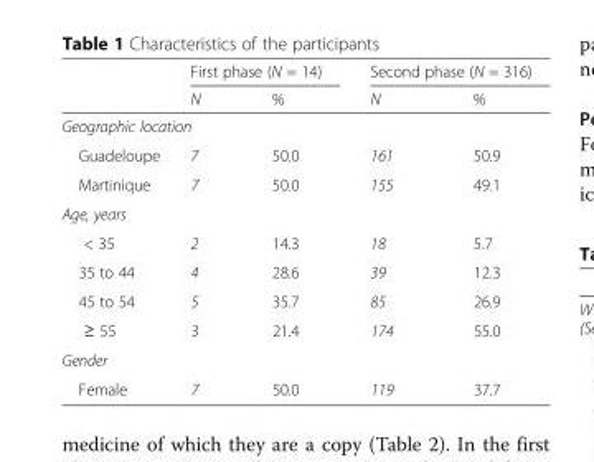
<table><thead><tr><td rowspan="2"></td><td colspan="2">First phase (N = 14)</td><td colspan="2">Second phase (N = 316)</td></tr><tr><td>N</td><td>%</td><td>N</td><td>%</td></tr></thead><tbody><tr><td colspan="5">Geographic location</td></tr><tr><td>Guadeloupe</td><td>7</td><td>50.0</td><td>161</td><td>50.9</td></tr><tr><td>Martinique</td><td>7</td><td>50.0</td><td>155</td><td>49.1</td></tr><tr><td colspan="5">Age, years</td></tr><tr><td>&lt; 35</td><td>2</td><td>14.3</td><td>18</td><td>5.7</td></tr><tr><td>35 to 44</td><td>4</td><td>28.6</td><td>39</td><td>12.3</td></tr><tr><td>45 to 54</td><td>5</td><td>35.7</td><td>85</td><td>26.9</td></tr><tr><td>≥ 55</td><td>3</td><td>21.4</td><td>174</td><td>55.0</td></tr><tr><td colspan="5">Gender</td></tr><tr><td>Female</td><td>7</td><td>50.0</td><td>119</td><td>37.7</td></tr></tbody></table>